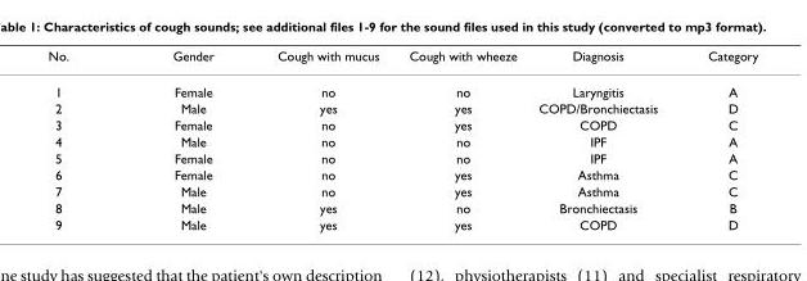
<table><thead><tr><td>No.</td><td>Gender</td><td>Cough with mucus</td><td>Cough with wheeze</td><td>Diagnosis</td><td>Category</td></tr></thead><tbody><tr><td>1</td><td>Female</td><td>no</td><td>no</td><td>Laryngitis</td><td>A</td></tr><tr><td>2</td><td>Male</td><td>yes</td><td>yes</td><td>COPD/Bronchiectasis</td><td>D</td></tr><tr><td>3</td><td>Female</td><td>no</td><td>yes</td><td>COPD</td><td>C</td></tr><tr><td>4</td><td>Male</td><td>no</td><td>no</td><td>IPF</td><td>A</td></tr><tr><td>5</td><td>Female</td><td>no</td><td>no</td><td>IPF</td><td>A</td></tr><tr><td>6</td><td>Female</td><td>no</td><td>yes</td><td>Asthma</td><td>C</td></tr><tr><td>7</td><td>Male</td><td>no</td><td>yes</td><td>Asthma</td><td>C</td></tr><tr><td>8</td><td>Male</td><td>yes</td><td>no</td><td>Bronchiectasis</td><td>B</td></tr><tr><td>9</td><td>Male</td><td>yes</td><td>yes</td><td>COPD</td><td>D</td></tr></tbody></table>